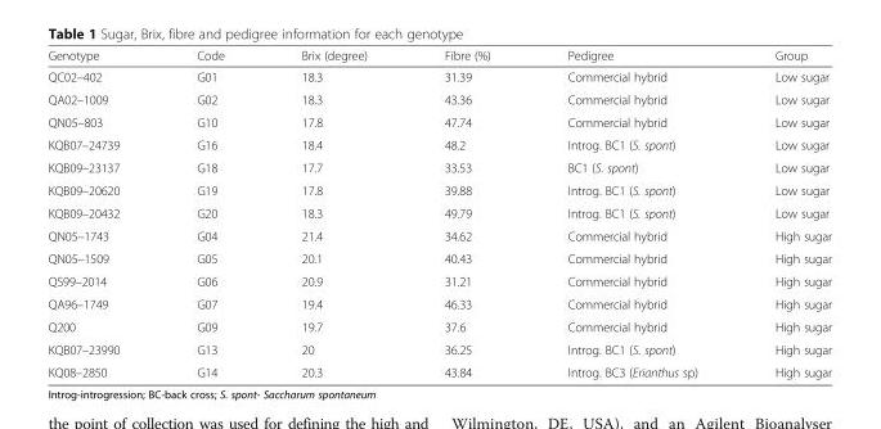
<table><thead><tr><td>Genotype</td><td>Code</td><td>Brix (degree)</td><td>Fibre (%)</td><td>Pedigree</td><td>Group</td></tr></thead><tbody><tr><td>QC02–402</td><td>G01</td><td>18.3</td><td>31.39</td><td>Commercial hybrid</td><td>Low sugar</td></tr><tr><td>QA02–1009</td><td>G02</td><td>18.3</td><td>43.36</td><td>Commercial hybrid</td><td>Low sugar</td></tr><tr><td>QN05–803</td><td>G10</td><td>17.8</td><td>47.74</td><td>Commercial hybrid</td><td>Low sugar</td></tr><tr><td>KQB07–24739</td><td>G16</td><td>18.4</td><td>48.2</td><td>Introg. BC1 (S. spont)</td><td>Low sugar</td></tr><tr><td>KQB09–23137</td><td>G18</td><td>17.7</td><td>33.53</td><td>BC1 (S. spont)</td><td>Low sugar</td></tr><tr><td>KQB09–20620</td><td>G19</td><td>17.8</td><td>39.88</td><td>Introg. BC1 (S. spont)</td><td>Low sugar</td></tr><tr><td>KQB09–20432</td><td>G20</td><td>18.3</td><td>49.79</td><td>Introg. BC1 (S. spont)</td><td>Low sugar</td></tr><tr><td>QN05–1743</td><td>G04</td><td>21.4</td><td>34.62</td><td>Commercial hybrid</td><td>High sugar</td></tr><tr><td>QN05–1509</td><td>G05</td><td>20.1</td><td>40.43</td><td>Commercial hybrid</td><td>High sugar</td></tr><tr><td>QS99–2014</td><td>G06</td><td>20.9</td><td>31.21</td><td>Commercial hybrid</td><td>High sugar</td></tr><tr><td>QA96–1749</td><td>G07</td><td>19.4</td><td>46.33</td><td>Commercial hybrid</td><td>High sugar</td></tr><tr><td>Q200</td><td>G09</td><td>19.7</td><td>37.6</td><td>Commercial hybrid</td><td>High sugar</td></tr><tr><td>KQB07–23990</td><td>G13</td><td>20</td><td>36.25</td><td>Introg. BC1 (S. spont)</td><td>High sugar</td></tr><tr><td>KQ08–2850</td><td>G14</td><td>20.3</td><td>43.84</td><td>Introg. BC3 (Erianthus sp)</td><td>High sugar</td></tr></tbody></table>